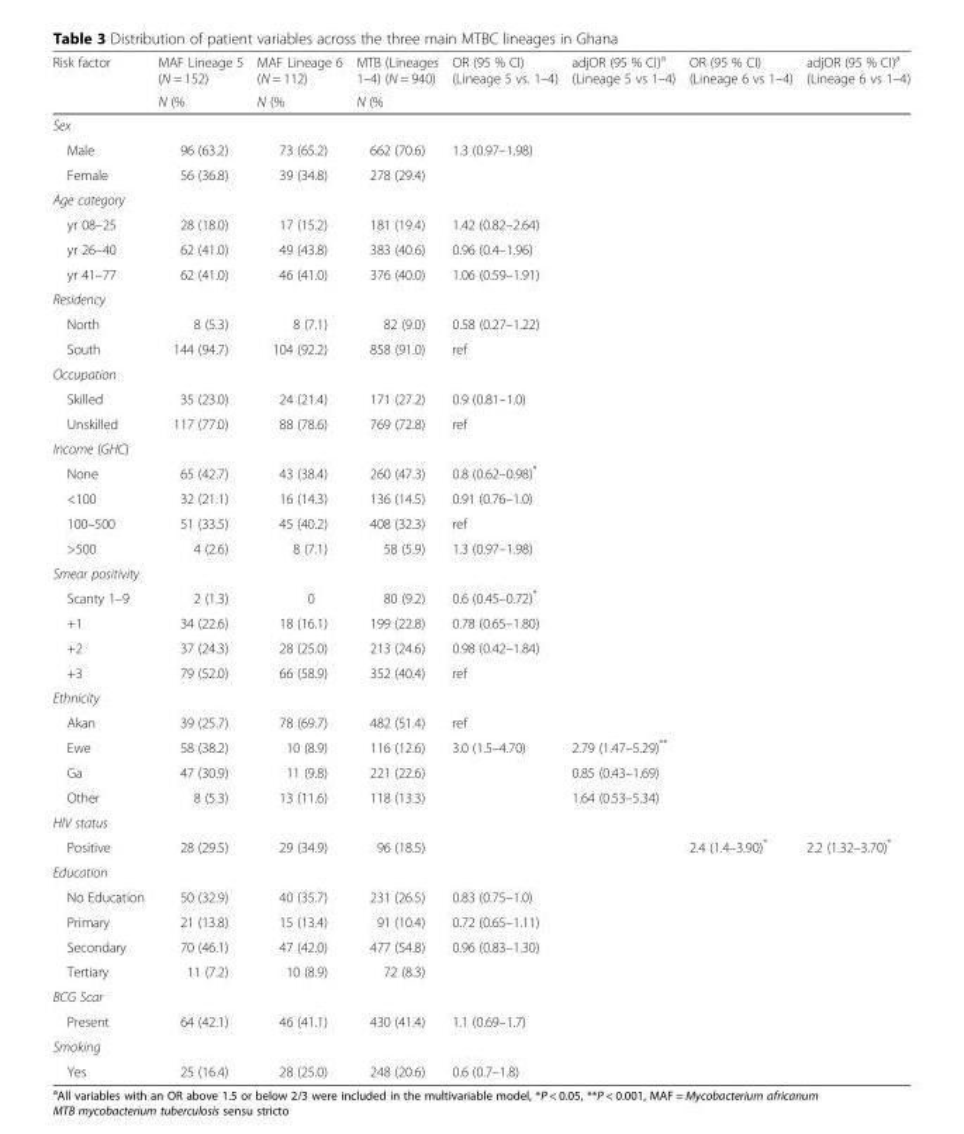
<table><thead><tr><td rowspan="2">Risk factor</td><td rowspan="2">MAF Lineage 5 (N = 152) N (%</td><td rowspan="2">MAF Lineage 6 (N = 112) N (%</td><td rowspan="2">MTB (Lineages 1–4) (N = 940) N (%</td><td rowspan="2">OR (95 % CI) (Lineage 5 vs. 1–4)</td><td rowspan="2">adjOR (95 % CI)<sup>a</sup> (Lineage 5 vs 1–4)</td><td rowspan="2">OR (95 % CI) (Lineage 6 vs 1–4)</td><td rowspan="2">adjOR (95 % CI)<sup>a</sup> (Lineage 6 vs 1–4)</td></tr><tr></tr></thead><tbody><tr><td colspan="8">Sex</td></tr><tr><td>Male</td><td>96 (63.2)</td><td>73 (65.2)</td><td>662 (70.6)</td><td>1.3 (0.97–1.98)</td><td></td><td></td><td></td></tr><tr><td>Female</td><td>56 (36.8)</td><td>39 (34.8)</td><td>278 (29.4)</td><td></td><td></td><td></td><td></td></tr><tr><td colspan="8">Age category</td></tr><tr><td>yr 08–25</td><td>28 (18.0)</td><td>17 (15.2)</td><td>181 (19.4)</td><td>1.42 (0.82–2.64)</td><td></td><td></td><td></td></tr><tr><td>yr 26–40</td><td>62 (41.0)</td><td>49 (43.8)</td><td>383 (40.6)</td><td>0.96 (0.4–1.96)</td><td></td><td></td><td></td></tr><tr><td>yr 41–77</td><td>62 (41.0)</td><td>46 (41.0)</td><td>376 (40.0)</td><td>1.06 (0.59–1.91)</td><td></td><td></td><td></td></tr><tr><td colspan="8">Residency</td></tr><tr><td>North</td><td>8 (5.3)</td><td>8 (7.1)</td><td>82 (9.0)</td><td>0.58 (0.27–1.22)</td><td></td><td></td><td></td></tr><tr><td>South</td><td>144 (94.7)</td><td>104 (92.2)</td><td>858 (91.0)</td><td>ref</td><td></td><td></td><td></td></tr><tr><td colspan="8">Occupation</td></tr><tr><td>Skilled</td><td>35 (23.0)</td><td>24 (21.4)</td><td>171 (27.2)</td><td>0.9 (0.81–1.0)</td><td></td><td></td><td></td></tr><tr><td>Unskilled</td><td>117 (77.0)</td><td>88 (78.6)</td><td>769 (72.8)</td><td>ref</td><td></td><td></td><td></td></tr><tr><td colspan="8">Income (GHC)</td></tr><tr><td>None</td><td>65 (42.7)</td><td>43 (38.4)</td><td>260 (47.3)</td><td>0.8 (0.62–0.98)*</td><td></td><td></td><td></td></tr><tr><td>&lt;100</td><td>32 (21.1)</td><td>16 (14.3)</td><td>136 (14.5)</td><td>0.91 (0.76–1.0)</td><td></td><td></td><td></td></tr><tr><td>100–500</td><td>51 (33.5)</td><td>45 (40.2)</td><td>408 (32.3)</td><td>ref</td><td></td><td></td><td></td></tr><tr><td>&gt;500</td><td>4 (2.6)</td><td>8 (7.1)</td><td>58 (5.9)</td><td>1.3 (0.97–1.98)</td><td></td><td></td><td></td></tr><tr><td colspan="8">Smear positivity</td></tr><tr><td>Scanty 1–9</td><td>2 (1.3)</td><td>0</td><td>80 (9.2)</td><td>0.6 (0.45–0.72)*</td><td></td><td></td><td></td></tr><tr><td>+1</td><td>34 (22.6)</td><td>18 (16.1)</td><td>199 (22.8)</td><td>0.78 (0.65–1.80)</td><td></td><td></td><td></td></tr><tr><td>+2</td><td>37 (24.3)</td><td>28 (25.0)</td><td>213 (24.6)</td><td>0.98 (0.42–1.84)</td><td></td><td></td><td></td></tr><tr><td>+3</td><td>79 (52.0)</td><td>66 (58.9)</td><td>352 (40.4)</td><td>ref</td><td></td><td></td><td></td></tr><tr><td colspan="8">Ethnicity</td></tr><tr><td>Akan</td><td>39 (25.7)</td><td>78 (69.7)</td><td>482 (51.4)</td><td>ref</td><td></td><td></td><td></td></tr><tr><td>Ewe</td><td>58 (38.2)</td><td>10 (8.9)</td><td>116 (12.6)</td><td>3.0 (1.5–4.70)</td><td>2.79 (1.47–5.29)**</td><td></td><td></td></tr><tr><td>Ga</td><td>47 (30.9)</td><td>11 (9.8)</td><td>221 (22.6)</td><td></td><td>0.85 (0.43–1.69)</td><td></td><td></td></tr><tr><td>Other</td><td>8 (5.3)</td><td>13 (11.6)</td><td>118 (13.3)</td><td></td><td>1.64 (0.53–5.34)</td><td></td><td></td></tr><tr><td colspan="8">HIV status</td></tr><tr><td>Positive</td><td>28 (29.5)</td><td>29 (34.9)</td><td>96 (18.5)</td><td></td><td></td><td>2.4 (1.4–3.90)*</td><td>2.2 (1.32–3.70)*</td></tr><tr><td colspan="8">Education</td></tr><tr><td>No Education</td><td>50 (32.9)</td><td>40 (35.7)</td><td>231 (26.5)</td><td>0.83 (0.75–1.0)</td><td></td><td></td><td></td></tr><tr><td>Primary</td><td>21 (13.8)</td><td>15 (13.4)</td><td>91 (10.4)</td><td>0.72 (0.65–1.11)</td><td></td><td></td><td></td></tr><tr><td>Secondary</td><td>70 (46.1)</td><td>47 (42.0)</td><td>477 (54.8)</td><td>0.96 (0.83–1.30)</td><td></td><td></td><td></td></tr><tr><td>Tertiary</td><td>11 (7.2)</td><td>10 (8.9)</td><td>72 (8.3)</td><td></td><td></td><td></td><td></td></tr><tr><td colspan="8">BCG Scar</td></tr><tr><td>Present</td><td>64 (42.1)</td><td>46 (41.1)</td><td>430 (41.4)</td><td>1.1 (0.69–1.7)</td><td></td><td></td><td></td></tr><tr><td colspan="8">Smoking</td></tr><tr><td>Yes</td><td>25 (16.4)</td><td>28 (25.0)</td><td>248 (20.6)</td><td>0.6 (0.7–1.8)</td><td></td><td></td><td></td></tr></tbody></table>